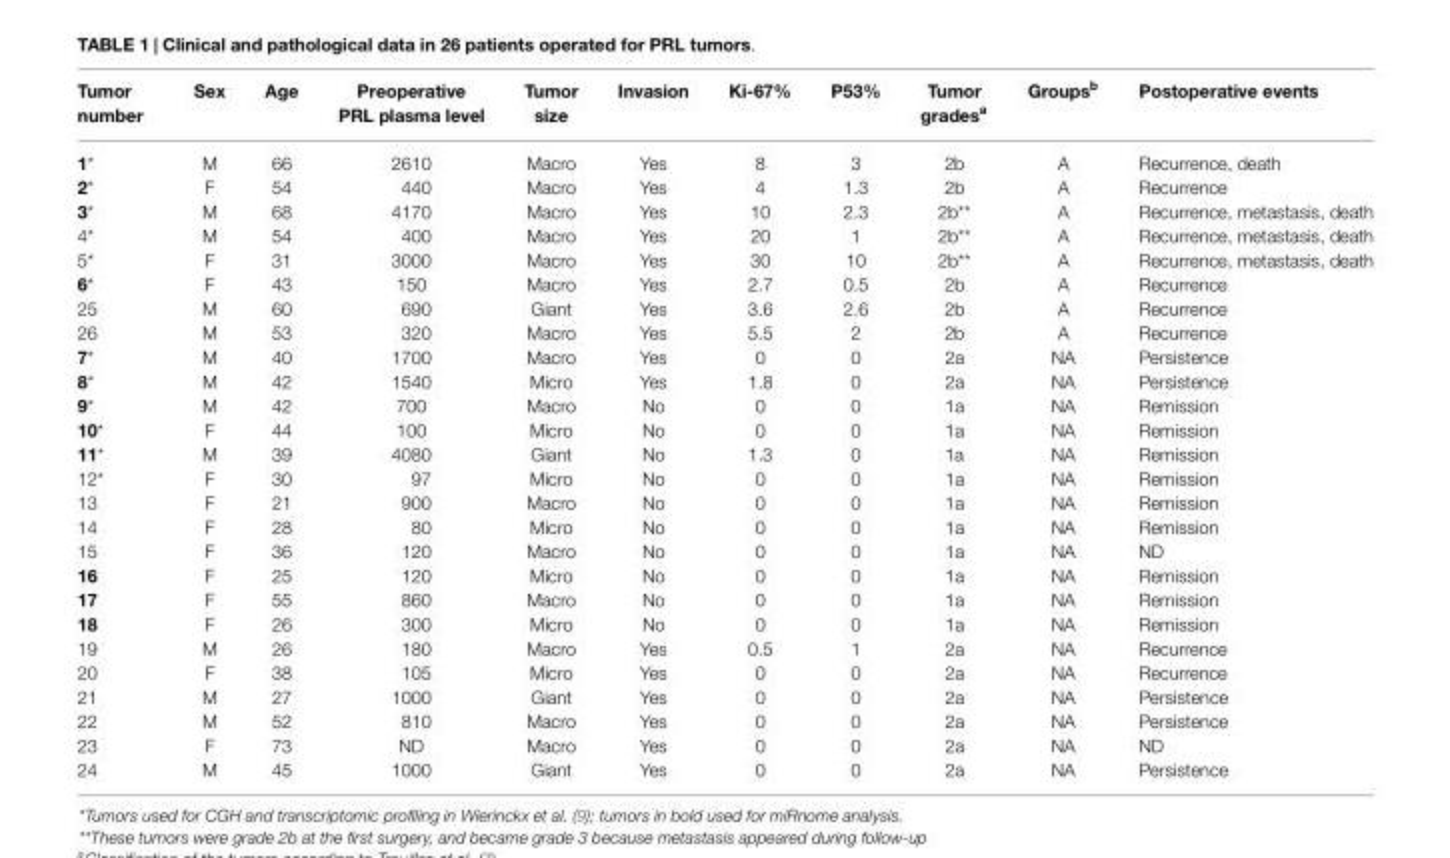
<table><thead><tr><td>Tumor number</td><td>Sex</td><td>Age</td><td>Preoperative PRL plasma level</td><td>Tumor size</td><td>Invasion</td><td>Ki-67%</td><td>P53%</td><td>Tumor grades<sup>a</sup></td><td>Groups<sup>b</sup></td><td>Postoperative events</td></tr></thead><tbody><tr><td>1*</td><td>M</td><td>66</td><td>2610</td><td>Macro</td><td>Yes</td><td>8</td><td>3</td><td>2b</td><td>A</td><td>Recurrence, death</td></tr><tr><td>2*</td><td>F</td><td>54</td><td>440</td><td>Macro</td><td>Yes</td><td>4</td><td>1.3</td><td>2b</td><td>A</td><td>Recurrence</td></tr><tr><td>3*</td><td>M</td><td>68</td><td>4170</td><td>Macro</td><td>Yes</td><td>10</td><td>2.3</td><td>2b**</td><td>A</td><td>Recurrence, metastasis, death</td></tr><tr><td>4*</td><td>M</td><td>54</td><td>400</td><td>Macro</td><td>Yes</td><td>20</td><td>1</td><td>2b**</td><td>A</td><td>Recurrence, metastasis, death</td></tr><tr><td>5*</td><td>F</td><td>31</td><td>3000</td><td>Macro</td><td>Yes</td><td>30</td><td>10</td><td>2b**</td><td>A</td><td>Recurrence, metastasis, death</td></tr><tr><td>6*</td><td>F</td><td>43</td><td>150</td><td>Macro</td><td>Yes</td><td>2.7</td><td>0.5</td><td>2b</td><td>A</td><td>Recurrence</td></tr><tr><td>25</td><td>M</td><td>60</td><td>690</td><td>Giant</td><td>Yes</td><td>3.6</td><td>2.6</td><td>2b</td><td>A</td><td>Recurrence</td></tr><tr><td>26</td><td>M</td><td>53</td><td>320</td><td>Macro</td><td>Yes</td><td>5.5</td><td>2</td><td>2b</td><td>A</td><td>Recurrence</td></tr><tr><td>7*</td><td>M</td><td>40</td><td>1700</td><td>Macro</td><td>Yes</td><td>0</td><td>0</td><td>2a</td><td>NA</td><td>Persistence</td></tr><tr><td>8*</td><td>M</td><td>42</td><td>1540</td><td>Micro</td><td>Yes</td><td>1.8</td><td>0</td><td>2a</td><td>NA</td><td>Persistence</td></tr><tr><td>9*</td><td>M</td><td>42</td><td>700</td><td>Macro</td><td>No</td><td>0</td><td>0</td><td>1a</td><td>NA</td><td>Remission</td></tr><tr><td>10*</td><td>F</td><td>44</td><td>100</td><td>Micro</td><td>No</td><td>0</td><td>0</td><td>1a</td><td>NA</td><td>Remission</td></tr><tr><td>11*</td><td>M</td><td>39</td><td>4080</td><td>Giant</td><td>No</td><td>1.3</td><td>0</td><td>1a</td><td>NA</td><td>Remission</td></tr><tr><td>12*</td><td>F</td><td>30</td><td>97</td><td>Micro</td><td>No</td><td>0</td><td>0</td><td>1a</td><td>NA</td><td>Remission</td></tr><tr><td>13</td><td>F</td><td>21</td><td>900</td><td>Macro</td><td>No</td><td>0</td><td>0</td><td>1a</td><td>NA</td><td>Remission</td></tr><tr><td>14</td><td>F</td><td>28</td><td>80</td><td>Micro</td><td>No</td><td>0</td><td>0</td><td>1a</td><td>NA</td><td>Remission</td></tr><tr><td>15</td><td>F</td><td>36</td><td>120</td><td>Macro</td><td>No</td><td>0</td><td>0</td><td>1a</td><td>NA</td><td>ND</td></tr><tr><td>16</td><td>F</td><td>25</td><td>120</td><td>Micro</td><td>No</td><td>0</td><td>0</td><td>1a</td><td>NA</td><td>Remission</td></tr><tr><td>17</td><td>F</td><td>55</td><td>860</td><td>Macro</td><td>No</td><td>0</td><td>0</td><td>1a</td><td>NA</td><td>Remission</td></tr><tr><td>18</td><td>F</td><td>26</td><td>300</td><td>Micro</td><td>No</td><td>0</td><td>0</td><td>1a</td><td>NA</td><td>Remission</td></tr><tr><td>19</td><td>M</td><td>26</td><td>180</td><td>Macro</td><td>Yes</td><td>0.5</td><td>1</td><td>2a</td><td>NA</td><td>Recurrence</td></tr><tr><td>20</td><td>F</td><td>38</td><td>105</td><td>Micro</td><td>Yes</td><td>0</td><td>0</td><td>2a</td><td>NA</td><td>Recurrence</td></tr><tr><td>21</td><td>M</td><td>27</td><td>1000</td><td>Giant</td><td>Yes</td><td>0</td><td>0</td><td>2a</td><td>NA</td><td>Persistence</td></tr><tr><td>22</td><td>M</td><td>52</td><td>810</td><td>Macro</td><td>Yes</td><td>0</td><td>0</td><td>2a</td><td>NA</td><td>Persistence</td></tr><tr><td>23</td><td>F</td><td>73</td><td>ND</td><td>Macro</td><td>Yes</td><td>0</td><td>0</td><td>2a</td><td>NA</td><td>ND</td></tr><tr><td>24</td><td>M</td><td>45</td><td>1000</td><td>Giant</td><td>Yes</td><td>0</td><td>0</td><td>2a</td><td>NA</td><td>Persistence</td></tr></tbody></table>